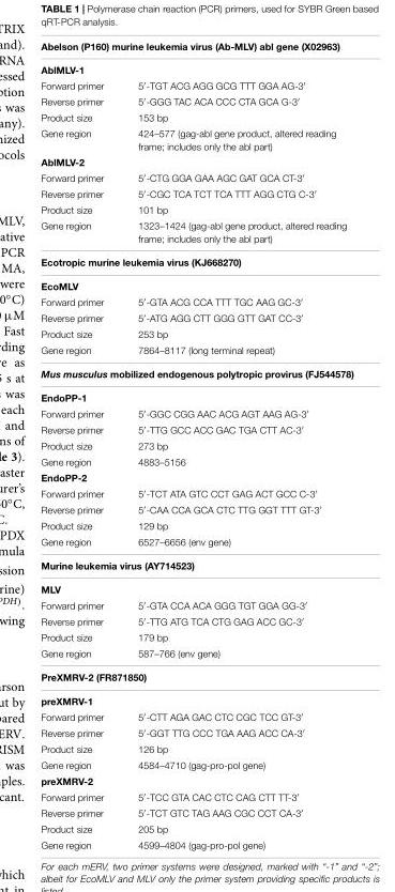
<table><thead><tr><td rowspan="2" colspan="2">Abelson (P160) murine leukemia virus (Ab-MLV) abl gene (X02963) AblMLV-1</td></tr><tr></tr><tr><td>Forward primer</td><td>5′-TGT ACG AGG GCG TTT GGA AG-3′</td></tr></thead><tbody><tr><td>Reverse primer</td><td>5′-GGG TAC ACA CCC CTA GCA G-3′</td></tr><tr><td>Product size</td><td>153 bp</td></tr><tr><td>Gene region</td><td>424–577 (gag-abl gene product, altered reading frame; includes only the abl part)</td></tr><tr><td colspan="2">AblMLV-2</td></tr><tr><td>Forward primer</td><td>5′-CTG GGA GAA AGC GAT GCA CT-3′</td></tr><tr><td>Reverse primer</td><td>5′-CGC TCA TCT TCA TTT AGG CTG C-3′</td></tr><tr><td>Product size</td><td>101 bp</td></tr><tr><td>Gene region</td><td>1323–1424 (gag-abl gene product, altered reading frame; includes only the abl part)</td></tr><tr><td colspan="2">Ecotropic murine leukemia virus (KJ668270)</td></tr><tr><td colspan="2">EcoMLV</td></tr><tr><td>Forward primer</td><td>5′-GTA ACG CCA TTT TGC AAG GC-3′</td></tr><tr><td>Reverse primer</td><td>5′-ATG AGG CTT GGG GTT GAT CC-3′</td></tr><tr><td>Product size</td><td>253 bp</td></tr><tr><td>Gene region</td><td>7864–8117 (long terminal repeat)</td></tr><tr><td colspan="2">Mus musculus mobilized endogenous polytropic provirus (FJ544578)</td></tr><tr><td colspan="2">EndoPP-1</td></tr><tr><td>Forward primer</td><td>5′-GGC CGG AAC ACG AGT AAG AG-3′</td></tr><tr><td>Reverse primer</td><td>5′-TTG GCC ACC GAC TGA CTT AC-3′</td></tr><tr><td>Product size</td><td>273 bp</td></tr><tr><td>Gene region</td><td>4883–5156</td></tr><tr><td colspan="2">EndoPP-2</td></tr><tr><td>Forward primer</td><td>5′-TCT ATA GTC CCT GAG ACT GCC C-3′</td></tr><tr><td>Reverse primer</td><td>5′-CAA CCA GCA CTC TTG GGT TTT GT-3′</td></tr><tr><td>Product size</td><td>129 bp</td></tr><tr><td>Gene region</td><td>6527–6656 (env gene)</td></tr><tr><td colspan="2">Murine leukemia virus (AY714523)</td></tr><tr><td colspan="2">MLV</td></tr><tr><td>Forward primer</td><td>5′-GTA CCA ACA GGG TGT GGA GG-3′</td></tr><tr><td>Reverse primer</td><td>5′-TTG ATG TCA CTG GAG ACC GC-3′</td></tr><tr><td>Product size</td><td>179 bp</td></tr><tr><td>Gene region</td><td>587–766 (env gene)</td></tr><tr><td colspan="2">PreXMRV-2 (FR871850)</td></tr><tr><td colspan="2">preXMRV-1</td></tr><tr><td>Forward primer</td><td>5′-CTT AGA GAC CTC CGC TCC GT-3′</td></tr><tr><td>Reverse primer</td><td>5′-GGT TTG CCC TGA AAG ACC CA-3′</td></tr><tr><td>Product size</td><td>126 bp</td></tr><tr><td>Gene region</td><td>4584–4710 (gag-pro-pol gene)</td></tr><tr><td colspan="2">preXMRV-2</td></tr><tr><td>Forward primer</td><td>5′-TCC GTA CAC CTC CAG CTT TT-3′</td></tr><tr><td>Reverse primer</td><td>5′-TCT GTC TAG AAG CGC CCT CA-3′</td></tr><tr><td>Product size</td><td>205 bp</td></tr><tr><td>Gene region</td><td>4599–4804 (gag-pro-pol gene)</td></tr></tbody></table>